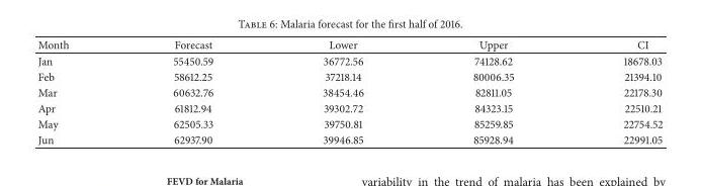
<table><thead><tr><td>Month</td><td>Forecast</td><td>Lower</td><td>Upper</td><td>CI</td></tr></thead><tbody><tr><td>Jan</td><td>55450.59</td><td>36772.56</td><td>74128.62</td><td>18678.03</td></tr><tr><td>Feb</td><td>58612.25</td><td>37218.14</td><td>80006.35</td><td>21394.10</td></tr><tr><td>Mar</td><td>60632.76</td><td>38454.46</td><td>82811.05</td><td>22178.30</td></tr><tr><td>Apr</td><td>61812.94</td><td>39302.72</td><td>84323.15</td><td>22510.21</td></tr><tr><td>May</td><td>62505.33</td><td>39750.81</td><td>85259.85</td><td>22754.52</td></tr><tr><td>Jun</td><td>62937.90</td><td>39946.85</td><td>85928.94</td><td>22991.05</td></tr></tbody></table>